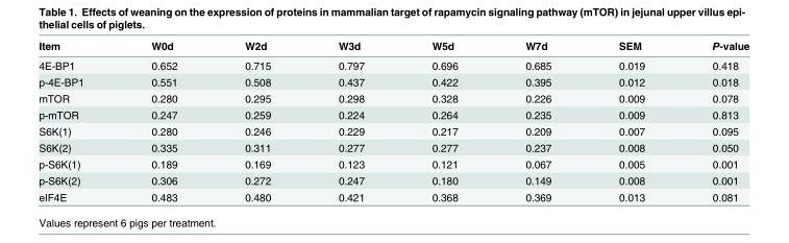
<table><thead><tr><td>Item</td><td>W0d</td><td>W2d</td><td>W3d</td><td>W5d</td><td>W7d</td><td>SEM</td><td>P-value</td></tr></thead><tbody><tr><td>4E-BP1</td><td>0.652</td><td>0.715</td><td>0.797</td><td>0.696</td><td>0.685</td><td>0.019</td><td>0.418</td></tr><tr><td>p-4E-BP1</td><td>0.551</td><td>0.508</td><td>0.437</td><td>0.422</td><td>0.395</td><td>0.012</td><td>0.018</td></tr><tr><td>mTOR</td><td>0.280</td><td>0.295</td><td>0.298</td><td>0.328</td><td>0.226</td><td>0.009</td><td>0.078</td></tr><tr><td>p-mTOR</td><td>0.247</td><td>0.259</td><td>0.224</td><td>0.264</td><td>0.235</td><td>0.009</td><td>0.813</td></tr><tr><td>S6K(1)</td><td>0.280</td><td>0.246</td><td>0.229</td><td>0.217</td><td>0.209</td><td>0.007</td><td>0.095</td></tr><tr><td>S6K(2)</td><td>0.335</td><td>0.311</td><td>0.277</td><td>0.277</td><td>0.237</td><td>0.008</td><td>0.050</td></tr><tr><td>p-S6K(1)</td><td>0.189</td><td>0.169</td><td>0.123</td><td>0.121</td><td>0.067</td><td>0.005</td><td>0.001</td></tr><tr><td>p-S6K(2)</td><td>0.306</td><td>0.272</td><td>0.247</td><td>0.180</td><td>0.149</td><td>0.008</td><td>0.001</td></tr><tr><td>eIF4E</td><td>0.483</td><td>0.480</td><td>0.421</td><td>0.368</td><td>0.369</td><td>0.013</td><td>0.081</td></tr></tbody></table>